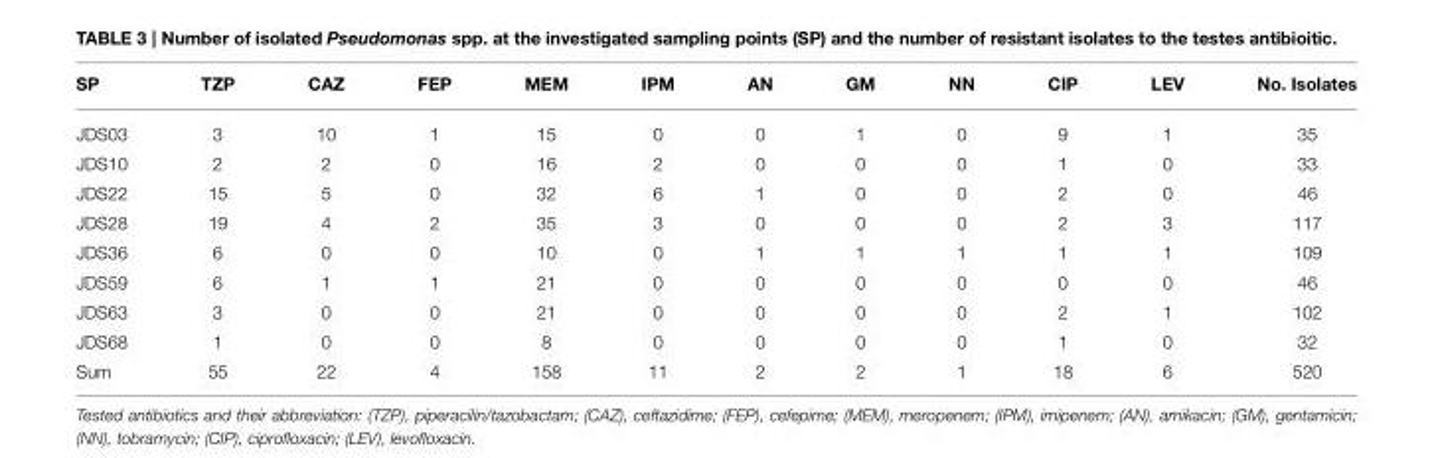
<table><thead><tr><td>SP</td><td>TZP</td><td>CAZ</td><td>FEP</td><td>MEM</td><td>IPM</td><td>AN</td><td>GM</td><td>NN</td><td>CIP</td><td>LEV</td><td>No. Isolates</td></tr></thead><tbody><tr><td>JDS03</td><td>3</td><td>10</td><td>1</td><td>15</td><td>0</td><td>0</td><td>1</td><td>0</td><td>9</td><td>1</td><td>35</td></tr><tr><td>JDS10</td><td>2</td><td>2</td><td>0</td><td>16</td><td>2</td><td>0</td><td>0</td><td>0</td><td>1</td><td>0</td><td>33</td></tr><tr><td>JDS22</td><td>15</td><td>5</td><td>0</td><td>32</td><td>6</td><td>1</td><td>0</td><td>0</td><td>2</td><td>0</td><td>46</td></tr><tr><td>JDS28</td><td>19</td><td>4</td><td>2</td><td>35</td><td>3</td><td>0</td><td>0</td><td>0</td><td>2</td><td>3</td><td>117</td></tr><tr><td>JDS36</td><td>6</td><td>0</td><td>0</td><td>10</td><td>0</td><td>1</td><td>1</td><td>1</td><td>1</td><td>1</td><td>109</td></tr><tr><td>JDS59</td><td>6</td><td>1</td><td>1</td><td>21</td><td>0</td><td>0</td><td>0</td><td>0</td><td>0</td><td>0</td><td>46</td></tr><tr><td>JDS63</td><td>3</td><td>0</td><td>0</td><td>21</td><td>0</td><td>0</td><td>0</td><td>0</td><td>2</td><td>1</td><td>102</td></tr><tr><td>JDS68</td><td>1</td><td>0</td><td>0</td><td>8</td><td>0</td><td>0</td><td>0</td><td>0</td><td>1</td><td>0</td><td>32</td></tr><tr><td>Sum</td><td>55</td><td>22</td><td>4</td><td>158</td><td>11</td><td>2</td><td>2</td><td>1</td><td>18</td><td>6</td><td>520</td></tr></tbody></table>